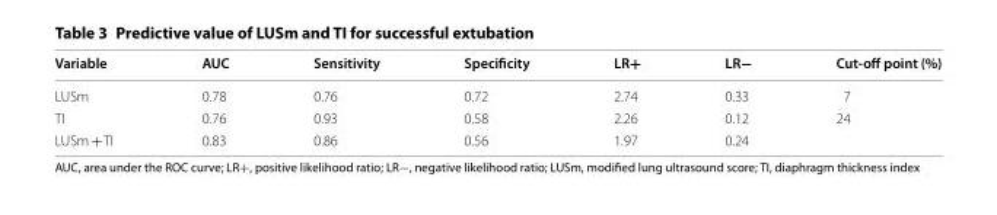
<table><thead><tr><td>Variable</td><td>AUC</td><td>Sensitivity</td><td>Specificity</td><td>LR+</td><td>LR−</td><td>Cut-off point (%)</td></tr></thead><tbody><tr><td>LUSm</td><td>0.78</td><td>0.76</td><td>0.72</td><td>2.74</td><td>0.33</td><td>7</td></tr><tr><td>TI</td><td>0.76</td><td>0.93</td><td>0.58</td><td>2.26</td><td>0.12</td><td>24</td></tr><tr><td>LUSm + TI</td><td>0.83</td><td>0.86</td><td>0.56</td><td>1.97</td><td>0.24</td><td></td></tr></tbody></table>